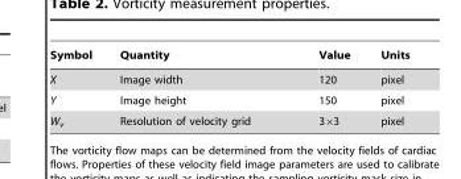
<table><thead><tr><td>Symbol</td><td>Quantity</td><td>Value</td><td>Units</td></tr></thead><tbody><tr><td>X</td><td>Image width</td><td>120</td><td>pixel</td></tr><tr><td>Y</td><td>Image height</td><td>150</td><td>pixel</td></tr><tr><td>W<sub>v</sub></td><td>Resolution of velocity grid</td><td>3×3</td><td>pixel</td></tr></tbody></table>